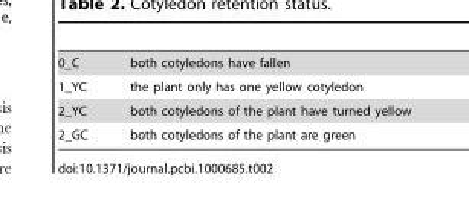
<table><tbody><tr><td>0_C</td><td>both cotyledons have fallen</td></tr><tr><td>1_YC</td><td>the plant only has one yellow cotyledon</td></tr><tr><td>2_YC</td><td>both cotyledons of the plant have turned yellow</td></tr><tr><td>2_GC</td><td>both cotyledons of the plant are green</td></tr></tbody></table>